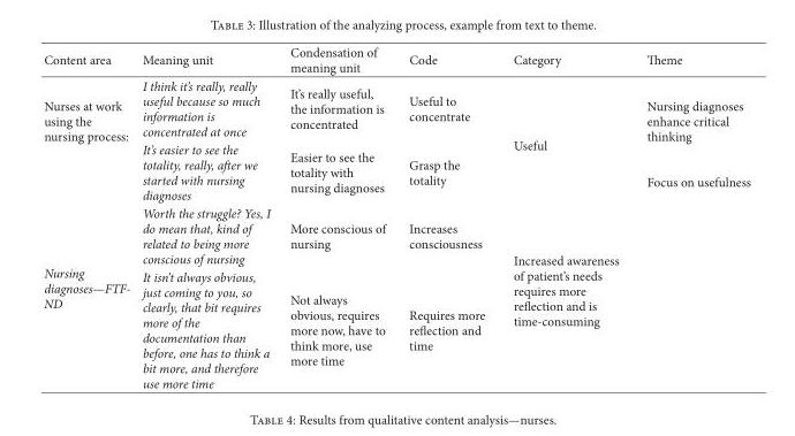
<table><thead><tr><td>Content area</td><td>Meaning unit</td><td>Condensation of meaning unit</td><td>Code</td><td>Category</td><td>Theme</td></tr></thead><tbody><tr><td rowspan="4">Nurses at work using the nursing process: Nursing diagnoses—FTF- ND</td><td>I think it’s really, really useful because so much information is concentrated at once</td><td>It’s really useful, the information is concentrated</td><td>Useful to concentrate</td><td rowspan="2">Useful</td><td rowspan="4">Nursing diagnoses enhance critical thinking Focus on usefulness</td></tr><tr><td>It’s easier to see the totality, really, after we started with nursing diagnoses</td><td>Easier to see the totality with nursing diagnoses</td><td>Grasp the totality</td></tr><tr><td>Worth the struggle? Yes, I do mean that, kind of related to being more conscious of nursing</td><td>More conscious of nursing</td><td>Increases consciousness</td><td rowspan="2">Increased awareness of patient’s needs requires more reflection and is time-consuming</td></tr><tr><td>It isn’t always obvious, just coming to you, so clearly, that bit requires more of the documentation than before, one has to think a bit more, and therefore use more time</td><td>Not always obvious, requires more now, have to think more, use more time</td><td>Requires more reflection and time</td></tr></tbody></table>